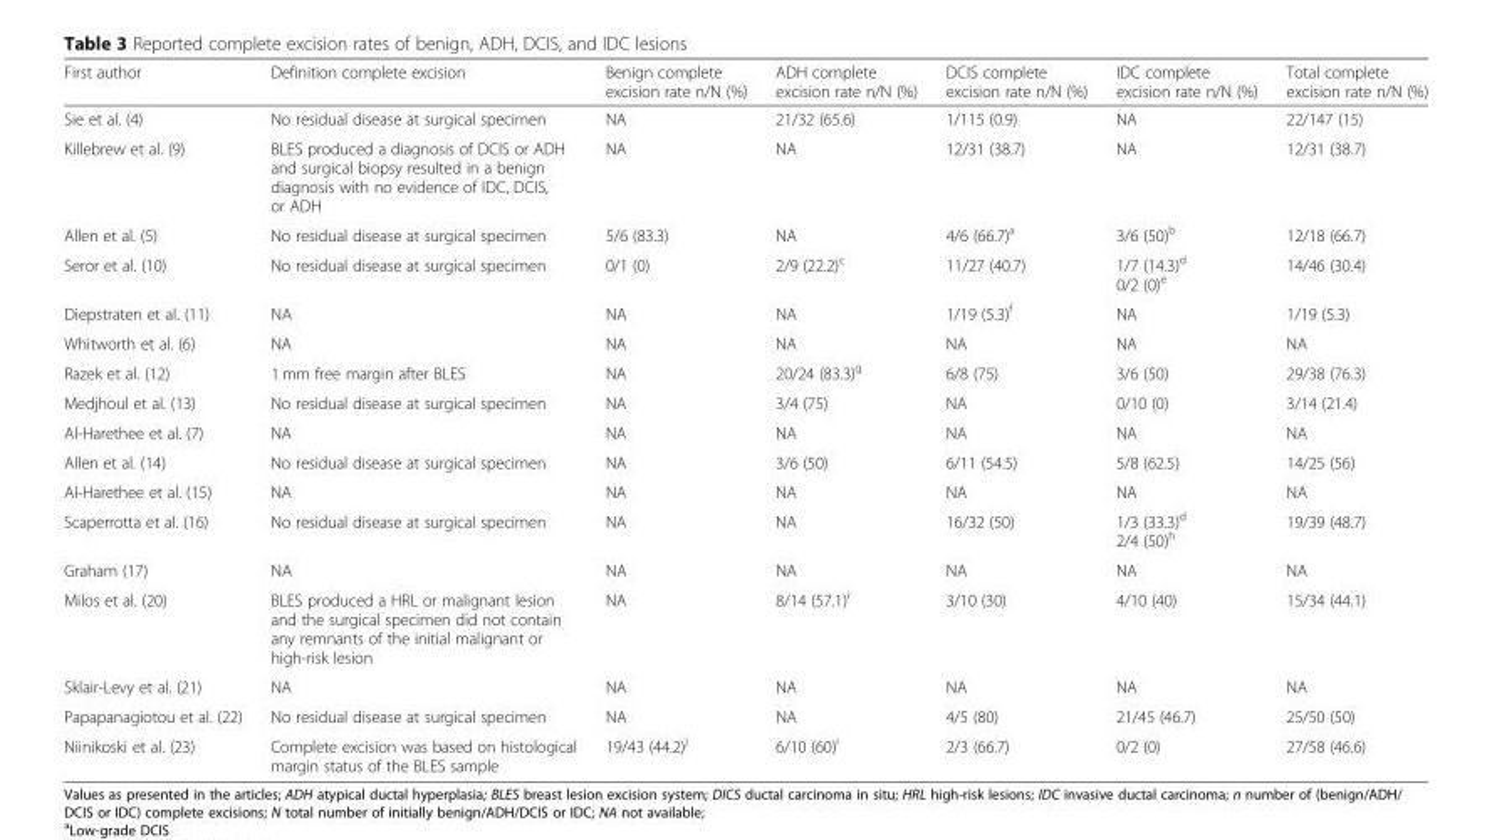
<table><thead><tr><td>First author</td><td>Definition complete excision</td><td>Benign complete excision rate n/N (%)</td><td>ADH complete excision rate n/N (%)</td><td>DCIS complete excision rate n/N (%)</td><td>IDC complete excision rate n/N (%)</td><td>Total complete excision rate n/N (%)</td></tr></thead><tbody><tr><td>Sie et al. (4)</td><td>No residual disease at surgical specimen</td><td>NA</td><td>21/32 (65.6)</td><td>1/115 (0.9)</td><td>NA</td><td>22/147 (15)</td></tr><tr><td>Killebrew et al. (9)</td><td>BLES produced a diagnosis of DCIS or ADH and surgical biopsy resulted in a benign diagnosis with no evidence of IDC, DCIS, or ADH</td><td>NA</td><td>NA</td><td>12/31 (38.7)</td><td>NA</td><td>12/31 (38.7)</td></tr><tr><td>Allen et al. (5)</td><td>No residual disease at surgical specimen</td><td>5/6 (83.3)</td><td>NA</td><td>4/6 (66.7)<sup>a</sup></td><td>3/6 (50)<sup>b</sup></td><td>12/18 (66.7)</td></tr><tr><td>Seror et al. (10)</td><td>No residual disease at surgical specimen</td><td>0/1 (0)</td><td>2/9 (22.2)<sup>c</sup></td><td>11/27 (40.7)</td><td>1/7 (14.3)<sup>d</sup> 0/2 (0)<sup>e</sup></td><td>14/46 (30.4)</td></tr><tr><td>Diepstraten et al. (11)</td><td>NA</td><td>NA</td><td>NA</td><td>1/19 (5.3)<sup>f</sup></td><td>NA</td><td>1/19 (5.3)</td></tr><tr><td>Whitworth et al. (6)</td><td>NA</td><td>NA</td><td>NA</td><td>NA</td><td>NA</td><td>NA</td></tr><tr><td>Razek et al. (12)</td><td>1 mm free margin after BLES</td><td>NA</td><td>20/24 (83.3)<sup>g</sup></td><td>6/8 (75)</td><td>3/6 (50)</td><td>29/38 (76.3)</td></tr><tr><td>Medjhoul et al. (13)</td><td>No residual disease at surgical specimen</td><td>NA</td><td>3/4 (75)</td><td>NA</td><td>0/10 (0)</td><td>3/14 (21.4)</td></tr><tr><td>Al-Harethee et al. (7)</td><td>NA</td><td>NA</td><td>NA</td><td>NA</td><td>NA</td><td>NA</td></tr><tr><td>Allen et al. (14)</td><td>No residual disease at surgical specimen</td><td>NA</td><td>3/6 (50)</td><td>6/11 (54.5)</td><td>5/8 (62.5)</td><td>14/25 (56)</td></tr><tr><td>Al-Harethee et al. (15)</td><td>NA</td><td>NA</td><td>NA</td><td>NA</td><td>NA</td><td>NA</td></tr><tr><td>Scaperrotta et al. (16)</td><td>No residual disease at surgical specimen</td><td>NA</td><td>NA</td><td>16/32 (50)</td><td>1/3 (33.3)<sup>d</sup> 2/4 (50)<sup>h</sup></td><td>19/39 (48.7)</td></tr><tr><td>Graham (17)</td><td>NA</td><td>NA</td><td>NA</td><td>NA</td><td>NA</td><td>NA</td></tr><tr><td>Milos et al. (20)</td><td>BLES produced a HRL or malignant lesion and the surgical specimen did not contain any remnants of the initial malignant or high-risk lesion</td><td>NA</td><td>8/14 (57.1)<sup>i</sup></td><td>3/10 (30)</td><td>4/10 (40)</td><td>15/34 (44.1)</td></tr><tr><td>Sklair-Levy et al. (21)</td><td>NA</td><td>NA</td><td>NA</td><td>NA</td><td>NA</td><td>NA</td></tr><tr><td>Papapanagiotou et al. (22)</td><td>No residual disease at surgical specimen</td><td>NA</td><td>NA</td><td>4/5 (80)</td><td>21/45 (46.7)</td><td>25/50 (50)</td></tr><tr><td>Niinikoski et al. (23)</td><td>Complete excision was based on histological margin status of the BLES sample</td><td>19/43 (44.2)<sup>j</sup></td><td>6/10 (60)<sup>i</sup></td><td>2/3 (66.7)</td><td>0/2 (0)</td><td>27/58 (46.6)</td></tr></tbody></table>